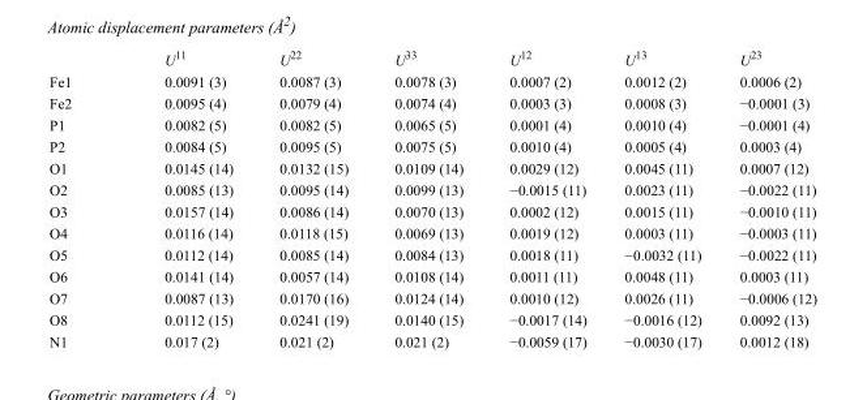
<table><thead><tr><td></td><td>U<sup>11</sup></td><td>U<sup>22</sup></td><td>U<sup>33</sup></td><td>U<sup>12</sup></td><td>U<sup>13</sup></td><td>U<sup>23</sup></td></tr></thead><tbody><tr><td>Fe1</td><td>0.0091 (3)</td><td>0.0087 (3)</td><td>0.0078 (3)</td><td>0.0007 (2)</td><td>0.0012 (2)</td><td>0.0006 (2)</td></tr><tr><td>Fe2</td><td>0.0095 (4)</td><td>0.0079 (4)</td><td>0.0074 (4)</td><td>0.0003 (3)</td><td>0.0008 (3)</td><td>−0.0001 (3)</td></tr><tr><td>P1</td><td>0.0082 (5)</td><td>0.0082 (5)</td><td>0.0065 (5)</td><td>0.0001 (4)</td><td>0.0010 (4)</td><td>−0.0001 (4)</td></tr><tr><td>P2</td><td>0.0084 (5)</td><td>0.0095 (5)</td><td>0.0075 (5)</td><td>0.0010 (4)</td><td>0.0005 (4)</td><td>0.0003 (4)</td></tr><tr><td>O1</td><td>0.0145 (14)</td><td>0.0132 (15)</td><td>0.0109 (14)</td><td>0.0029 (12)</td><td>0.0045 (11)</td><td>0.0007 (12)</td></tr><tr><td>O2</td><td>0.0085 (13)</td><td>0.0095 (14)</td><td>0.0099 (13)</td><td>−0.0015 (11)</td><td>0.0023 (11)</td><td>−0.0022 (11)</td></tr><tr><td>O3</td><td>0.0157 (14)</td><td>0.0086 (14)</td><td>0.0070 (13)</td><td>0.0002 (12)</td><td>0.0015 (11)</td><td>−0.0010 (11)</td></tr><tr><td>O4</td><td>0.0116 (14)</td><td>0.0118 (15)</td><td>0.0069 (13)</td><td>0.0019 (12)</td><td>0.0003 (11)</td><td>−0.0003 (11)</td></tr><tr><td>O5</td><td>0.0112 (14)</td><td>0.0085 (14)</td><td>0.0084 (13)</td><td>0.0018 (11)</td><td>−0.0032 (11)</td><td>−0.0022 (11)</td></tr><tr><td>O6</td><td>0.0141 (14)</td><td>0.0057 (14)</td><td>0.0108 (14)</td><td>0.0011 (11)</td><td>0.0048 (11)</td><td>0.0003 (11)</td></tr><tr><td>O7</td><td>0.0087 (13)</td><td>0.0170 (16)</td><td>0.0124 (14)</td><td>0.0010 (12)</td><td>0.0026 (11)</td><td>−0.0006 (12)</td></tr><tr><td>O8</td><td>0.0112 (15)</td><td>0.0241 (19)</td><td>0.0140 (15)</td><td>−0.0017 (14)</td><td>−0.0016 (12)</td><td>0.0092 (13)</td></tr><tr><td>N1</td><td>0.017 (2)</td><td>0.021 (2)</td><td>0.021 (2)</td><td>−0.0059 (17)</td><td>−0.0030 (17)</td><td>0.0012 (18)</td></tr></tbody></table>